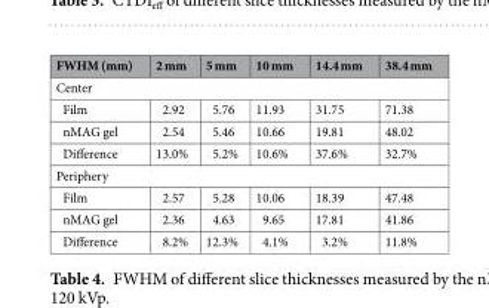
<table><thead><tr><td>FWHM (mm)</td><td>2 mm</td><td>5 mm</td><td>10 mm</td><td>14.4 mm</td><td>38.4 mm</td></tr></thead><tbody><tr><td colspan="6">Center</td></tr><tr><td>Film</td><td>2.92</td><td>5.76</td><td>11.93</td><td>31.75</td><td>71.38</td></tr><tr><td>nMAG gel</td><td>2.54</td><td>5.46</td><td>10.66</td><td>19.81</td><td>48.02</td></tr><tr><td>Difference</td><td>13.0%</td><td>5.2%</td><td>10.6%</td><td>37.6%</td><td>32.7%</td></tr><tr><td colspan="6">Periphery</td></tr><tr><td>Film</td><td>2.57</td><td>5.28</td><td>10.06</td><td>18.39</td><td>47.48</td></tr><tr><td>nMAG gel</td><td>2.36</td><td>4.63</td><td>9.65</td><td>17.81</td><td>41.86</td></tr><tr><td>Difference</td><td>8.2%</td><td>12.3%</td><td>4.1%</td><td>3.2%</td><td>11.8%</td></tr></tbody></table>